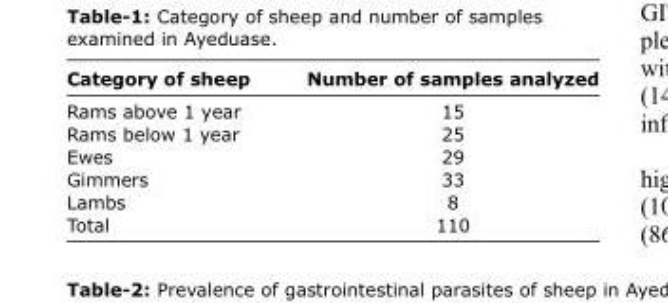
<table><thead><tr><td>Category of sheep</td><td>Number of samples analyzed</td></tr></thead><tbody><tr><td>Rams above 1 year</td><td>15</td></tr><tr><td>Rams below 1 year</td><td>25</td></tr><tr><td>Ewes</td><td>29</td></tr><tr><td>Gimmers</td><td>33</td></tr><tr><td>Lambs</td><td>8</td></tr><tr><td>Total</td><td>110</td></tr></tbody></table>